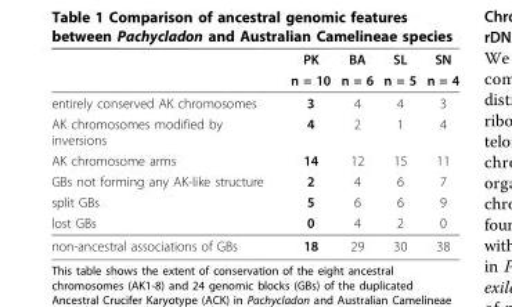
<table><thead><tr><td rowspan="2"></td><td rowspan="2">PK n = 10</td><td rowspan="2">BA n = 6</td><td rowspan="2">SL n = 5</td><td rowspan="2">SN n = 4</td></tr><tr></tr></thead><tbody><tr><td>entirely conserved AK chromosomes</td><td>3</td><td>4</td><td>4</td><td>3</td></tr><tr><td>AK chromosomes modified by inversions</td><td>4</td><td>2</td><td>1</td><td>4</td></tr><tr><td>AK chromosome arms</td><td>14</td><td>12</td><td>15</td><td>11</td></tr><tr><td>GBs not forming any AK-like structure</td><td>2</td><td>4</td><td>6</td><td>7</td></tr><tr><td>split GBs</td><td>5</td><td>6</td><td>6</td><td>9</td></tr><tr><td>lost GBs</td><td>0</td><td>4</td><td>2</td><td>0</td></tr><tr><td>non-ancestral associations of GBs</td><td>18</td><td>29</td><td>30</td><td>38</td></tr></tbody></table>